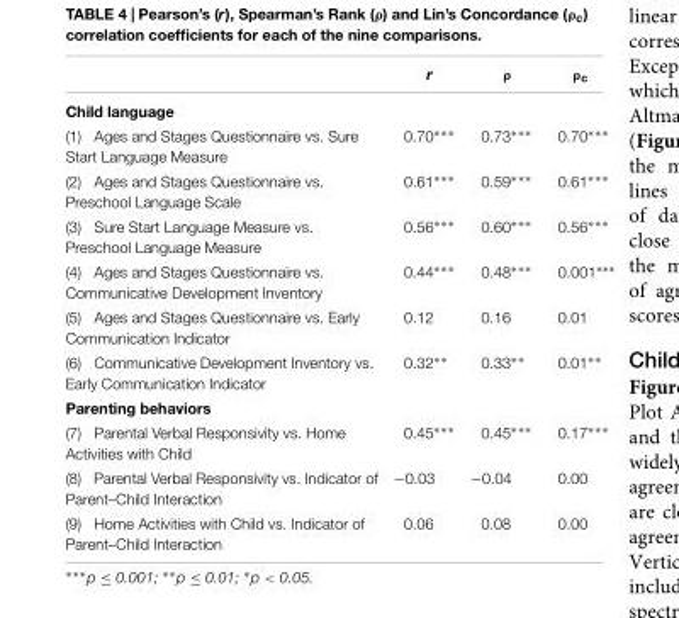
<table><thead><tr><td></td><td>r</td><td>ρ</td><td>ρ<sub>c</sub></td></tr></thead><tbody><tr><td colspan="4">Child language</td></tr><tr><td>(1) Ages and Stages Questionnaire vs. Sure Start Language Measure</td><td>0.70∗∗∗</td><td>0.73∗∗∗</td><td>0.70∗∗∗</td></tr><tr><td>(2) Ages and Stages Questionnaire vs. Preschool Language Scale</td><td>0.61∗∗∗</td><td>0.59∗∗∗</td><td>0.61∗∗∗</td></tr><tr><td>(3) Sure Start Language Measure vs. Preschool Language Measure</td><td>0.56∗∗∗</td><td>0.60∗∗∗</td><td>0.56∗∗∗</td></tr><tr><td>(4) Ages and Stages Questionnaire vs. Communicative Development Inventory</td><td>0.44∗∗∗</td><td>0.48∗∗∗</td><td>0.001∗∗∗</td></tr><tr><td>(5) Ages and Stages Questionnaire vs. Early Communication Indicator</td><td>0.12</td><td>0.16</td><td>0.01</td></tr><tr><td>(6) Communicative Development Inventory vs. Early Communication Indicator</td><td>0.32∗∗</td><td>0.33∗∗</td><td>0.01∗∗</td></tr><tr><td colspan="4">Parenting behaviors</td></tr><tr><td>(7) Parental Verbal Responsivity vs. Home Activities with Child</td><td>0.45∗∗∗</td><td>0.45∗∗∗</td><td>0.17∗∗∗</td></tr><tr><td>(8) Parental Verbal Responsivity vs. Indicator of Parent–Child Interaction</td><td>−0.03</td><td>−0.04</td><td>0.00</td></tr><tr><td>(9) Home Activities with Child vs. Indicator of Parent–Child Interaction</td><td>0.06</td><td>0.08</td><td>0.00</td></tr></tbody></table>